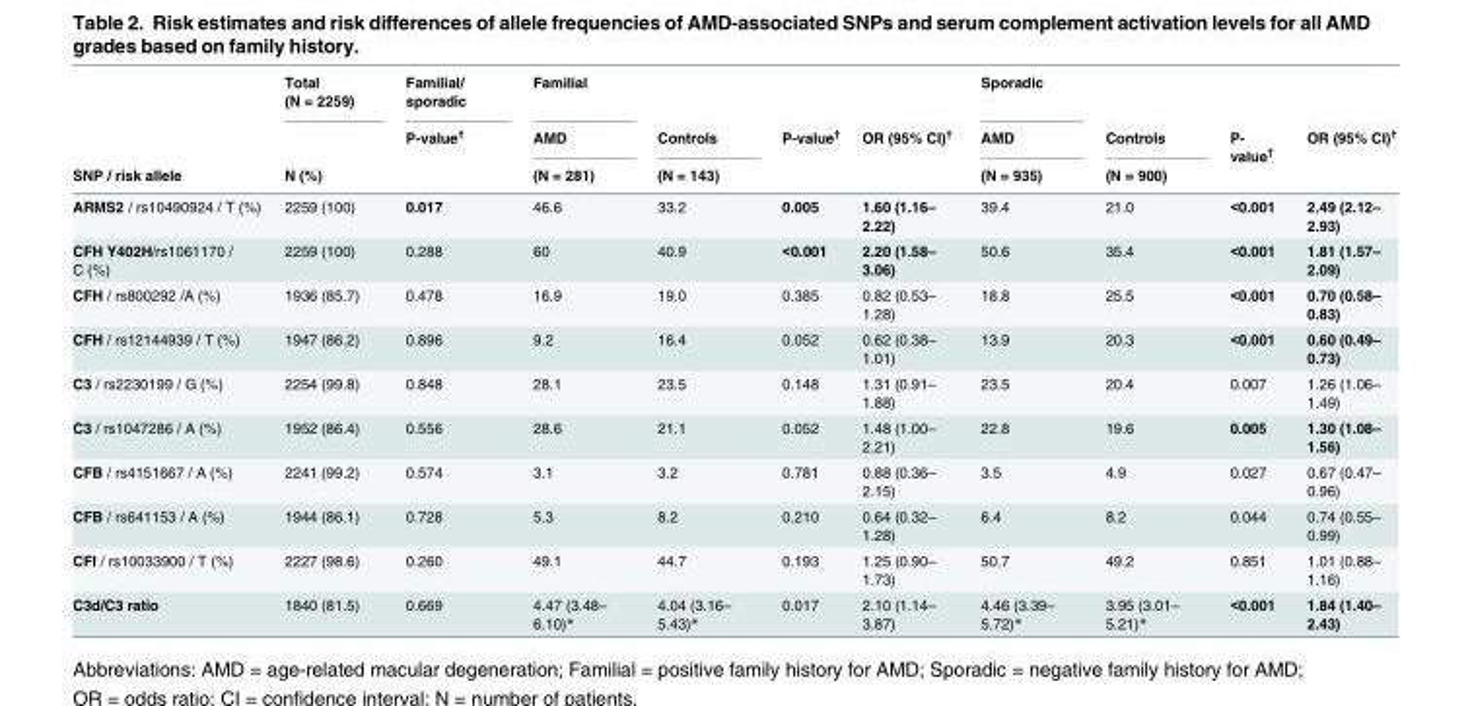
<table><thead><tr><td rowspan="3">SNP / risk allele</td><td rowspan="3">Total (N = 2259) N (%)</td><td rowspan="3">Familial/ sporadic P-value<sup>†</sup></td><td rowspan="3">Familial AMD (N = 281)</td><td rowspan="3">Controls (N = 143)</td><td rowspan="3">P-value<sup>†</sup></td><td rowspan="3">OR (95% CI)<sup>†</sup></td><td rowspan="3">Sporadic AMD (N = 935)</td><td rowspan="3">Controls (N = 900)</td><td rowspan="3">P- value<sup>†</sup></td><td rowspan="3">OR (95% CI)<sup>†</sup></td></tr><tr></tr><tr></tr></thead><tbody><tr><td>ARMS2 / rs10490924 / T (%)</td><td>2259 (100)</td><td>0.017</td><td>46.6</td><td>33.2</td><td>0.005</td><td>1.60 (1.16– 2.22)</td><td>39.4</td><td>21.0</td><td>&lt;0.001</td><td>2.49 (2.12– 2.93)</td></tr><tr><td>CFH Y402H/rs1061170 / C (%)</td><td>2259 (100)</td><td>0.288</td><td>60</td><td>40.9</td><td>&lt;0.001</td><td>2.20 (1.58– 3.06)</td><td>50.6</td><td>35.4</td><td>&lt;0.001</td><td>1.81 (1.57– 2.09)</td></tr><tr><td>CFH / rs800292 /A (%)</td><td>1936 (85.7)</td><td>0.478</td><td>16.9</td><td>19.0</td><td>0.385</td><td>0.82 (0.53– 1.28)</td><td>18.8</td><td>25.5</td><td>&lt;0.001</td><td>0.70 (0.58– 0.83)</td></tr><tr><td>CFH / rs12144939 / T (%)</td><td>1947 (86.2)</td><td>0.896</td><td>9.2</td><td>16.4</td><td>0.052</td><td>0.62 (0.38– 1.01)</td><td>13.9</td><td>20.3</td><td>&lt;0.001</td><td>0.60 (0.49– 0.73)</td></tr><tr><td>C3 / rs2230199 / G (%)</td><td>2254 (99.8)</td><td>0.848</td><td>28.1</td><td>23.5</td><td>0.148</td><td>1.31 (0.91– 1.88)</td><td>23.5</td><td>20.4</td><td>0.007</td><td>1.26 (1.06– 1.49)</td></tr><tr><td>C3 / rs1047286 / A (%)</td><td>1952 (86.4)</td><td>0.556</td><td>28.6</td><td>21.1</td><td>0.052</td><td>1.48 (1.00– 2.21)</td><td>22.8</td><td>19.6</td><td>0.005</td><td>1.30 (1.08– 1.56)</td></tr><tr><td>CFB / rs4151667 / A (%)</td><td>2241 (99.2)</td><td>0.574</td><td>3.1</td><td>3.2</td><td>0.781</td><td>0.88 (0.36– 2.15)</td><td>3.5</td><td>4.9</td><td>0.027</td><td>0.67 (0.47– 0.96)</td></tr><tr><td>CFB / rs641153 / A (%)</td><td>1944 (86.1)</td><td>0.728</td><td>5.3</td><td>8.2</td><td>0.210</td><td>0.64 (0.32– 1.28)</td><td>6.4</td><td>8.2</td><td>0.044</td><td>0.74 (0.55– 0.99)</td></tr><tr><td>CFI / rs10033900 / T (%)</td><td>2227 (98.6)</td><td>0.260</td><td>49.1</td><td>44.7</td><td>0.193</td><td>1.25 (0.90– 1.73)</td><td>50.7</td><td>49.2</td><td>0.851</td><td>1.01 (0.88– 1.16)</td></tr><tr><td>C3d/C3 ratio</td><td>1840 (81.5)</td><td>0.669</td><td>4.47 (3.48– 6.10)*</td><td>4.04 (3.16– 5.43)*</td><td>0.017</td><td>2.10 (1.14– 3.87)</td><td>4.46 (3.39– 5.72)*</td><td>3.95 (3.01– 5.21)*</td><td>&lt;0.001</td><td>1.84 (1.40– 2.43)</td></tr></tbody></table>